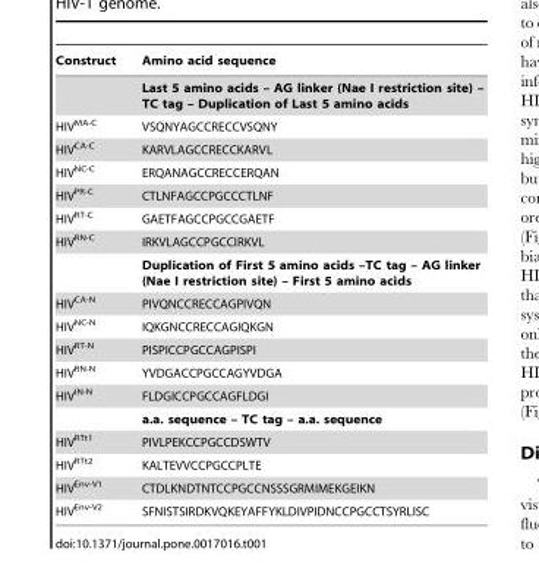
<table><thead><tr><td>Construct</td><td>Amino acid sequence</td></tr></thead><tbody><tr><td></td><td>Last 5 amino acids – AG linker (Nae I restriction site) – TC tag – Duplication of Last 5 amino acids</td></tr><tr><td>HIV<sup>MA-C</sup></td><td>VSQNYAGCCRECCVSQNY</td></tr><tr><td>HIV<sup>CA-C</sup></td><td>KARVLAGCCRECCKARVL</td></tr><tr><td>HIV<sup>NC-C</sup></td><td>ERQANAGCCRECCERQAN</td></tr><tr><td>HIV<sup>PR-C</sup></td><td>CTLNFAGCCPGCCCTLNF</td></tr><tr><td>HIV<sup>RT-C</sup></td><td>GAETFAGCCPGCCGAETF</td></tr><tr><td rowspan="2">HIV<sup>RN-C</sup></td><td>IRKVLAGCCPGCCIRKVL</td></tr><tr><td>Duplication of First 5 amino acids –TC tag – AG linker (Nae I restriction site) – First 5 amino acids</td></tr><tr><td>HIV<sup>CA-N</sup></td><td>PIVQNCCRECCAGPIVQN</td></tr><tr><td>HIV<sup>NC-N</sup></td><td>IQKGNCCRECCAGIQKGN</td></tr><tr><td>HIV<sup>RT-N</sup></td><td>PISPICCPGCCAGPISPI</td></tr><tr><td>HIV<sup>RN-N</sup></td><td>YVDGACCPGCCAGYVDGA</td></tr><tr><td rowspan="2">HIV<sup>IN-N</sup></td><td>FLDGICCPGCCAGFLDGI</td></tr><tr><td>a.a. sequence – TC tag – a.a. sequence</td></tr><tr><td>HIV<sup>RTt1</sup></td><td>PIVLPEKCCPGCCDSWTV</td></tr><tr><td>HIV<sup>RTt2</sup></td><td>KALTEVVCCPGCCPLTE</td></tr><tr><td>HIV<sup>Env-V1</sup></td><td>CTDLKNDTNTCCPGCCNSSSGRMIMEKGEIKN</td></tr><tr><td>HIV<sup>Env-V2</sup></td><td>SFNISTSIRDKVQKEYAFFYKLDIVPIDNCCPGCCTSYRLISC</td></tr></tbody></table>